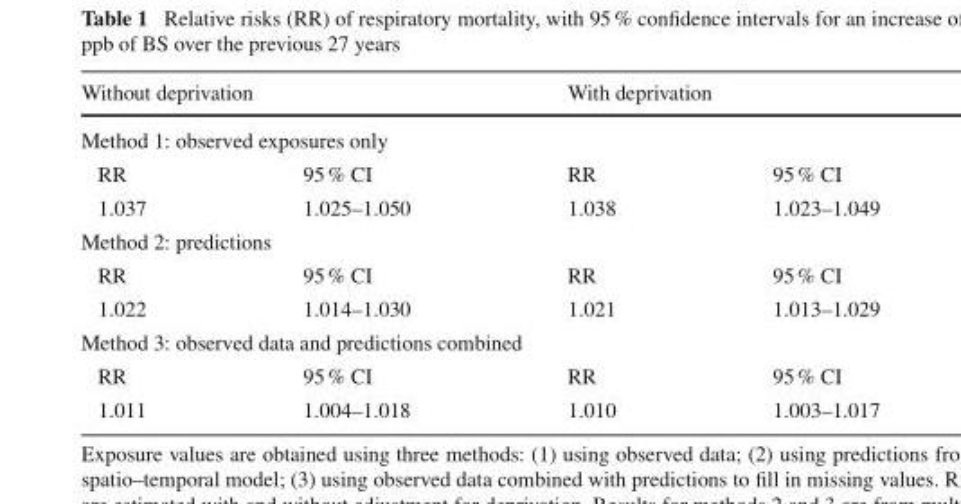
<table><thead><tr><td colspan="2">Without deprivation</td><td colspan="2">With deprivation</td></tr><tr><td colspan="4">Method 1: observed exposures only</td></tr><tr><td>RR</td><td>95% CI</td><td>RR</td><td>95% CI</td></tr></thead><tbody><tr><td>1.037</td><td>1.025–1.050</td><td>1.038</td><td>1.023–1.049</td></tr><tr><td colspan="4">Method 2: predictions</td></tr><tr><td>RR</td><td>95% CI</td><td>RR</td><td>95% CI</td></tr><tr><td>1.022</td><td>1.014–1.030</td><td>1.021</td><td>1.013–1.029</td></tr><tr><td colspan="4">Method 3: observed data and predictions combined</td></tr><tr><td>RR</td><td>95% CI</td><td>RR</td><td>95% CI</td></tr><tr><td>1.011</td><td>1.004–1.018</td><td>1.010</td><td>1.003–1.017</td></tr></tbody></table>